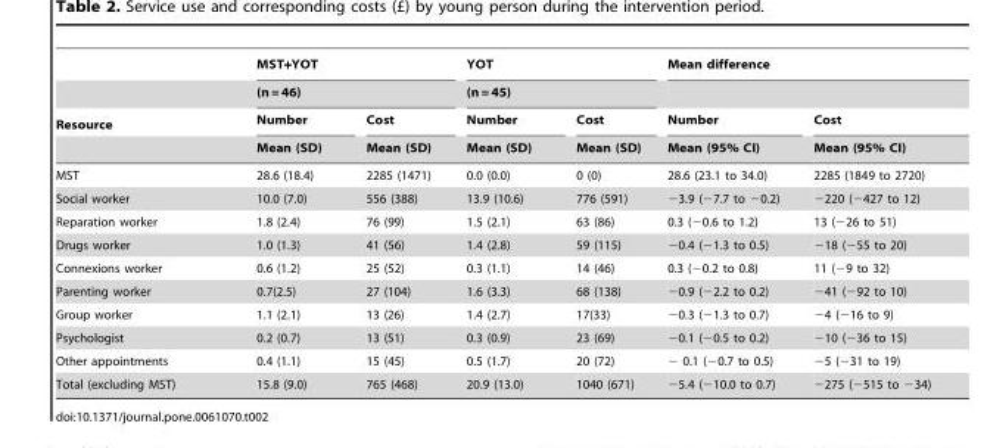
<table><thead><tr><td rowspan="4">Resource</td><td rowspan="2" colspan="2">MST+YOT (n = 46)</td><td rowspan="2" colspan="2">YOT (n = 45)</td><td colspan="2">Mean difference</td></tr><tr><td rowspan="3">Number Mean (95% CI)</td><td rowspan="3">Cost Mean (95% CI)</td></tr><tr><td rowspan="2">Number Mean (SD)</td><td rowspan="2">Cost Mean (SD)</td><td rowspan="2">Number Mean (SD)</td><td rowspan="2">Cost Mean (SD)</td></tr><tr></tr></thead><tbody><tr><td>MST</td><td>28.6 (18.4)</td><td>2285 (1471)</td><td>0.0 (0.0)</td><td>0 (0)</td><td>28.6 (23.1 to 34.0)</td><td>2285 (1849 to 2720)</td></tr><tr><td>Social worker</td><td>10.0 (7.0)</td><td>556 (388)</td><td>13.9 (10.6)</td><td>776 (591)</td><td>−3.9 (−7.7 to −0.2)</td><td>−220 (−427 to 12)</td></tr><tr><td>Reparation worker</td><td>1.8 (2.4)</td><td>76 (99)</td><td>1.5 (2.1)</td><td>63 (86)</td><td>0.3 (−0.6 to 1.2)</td><td>13 (−26 to 51)</td></tr><tr><td>Drugs worker</td><td>1.0 (1.3)</td><td>41 (56)</td><td>1.4 (2.8)</td><td>59 (115)</td><td>−0.4 (−1.3 to 0.5)</td><td>−18 (−55 to 20)</td></tr><tr><td>Connexions worker</td><td>0.6 (1.2)</td><td>25 (52)</td><td>0.3 (1.1)</td><td>14 (46)</td><td>0.3 (−0.2 to 0.8)</td><td>11 (−9 to 32)</td></tr><tr><td>Parenting worker</td><td>0.7(2.5)</td><td>27 (104)</td><td>1.6 (3.3)</td><td>68 (138)</td><td>−0.9 (−2.2 to 0.2)</td><td>−41 (−92 to 10)</td></tr><tr><td>Group worker</td><td>1.1 (2.1)</td><td>13 (26)</td><td>1.4 (2.7)</td><td>17(33)</td><td>−0.3 (−1.3 to 0.7)</td><td>−4 (−16 to 9)</td></tr><tr><td>Psychologist</td><td>0.2 (0.7)</td><td>13 (51)</td><td>0.3 (0.9)</td><td>23 (69)</td><td>−0.1 (−0.5 to 0.2)</td><td>−10 (−36 to 15)</td></tr><tr><td>Other appointments</td><td>0.4 (1.1)</td><td>15 (45)</td><td>0.5 (1.7)</td><td>20 (72)</td><td>− 0.1 (−0.7 to 0.5)</td><td>−5 (−31 to 19)</td></tr><tr><td>Total (excluding MST)</td><td>15.8 (9.0)</td><td>765 (468)</td><td>20.9 (13.0)</td><td>1040 (671)</td><td>−5.4 (−10.0 to 0.7)</td><td>−275 (−515 to −34)</td></tr></tbody></table>